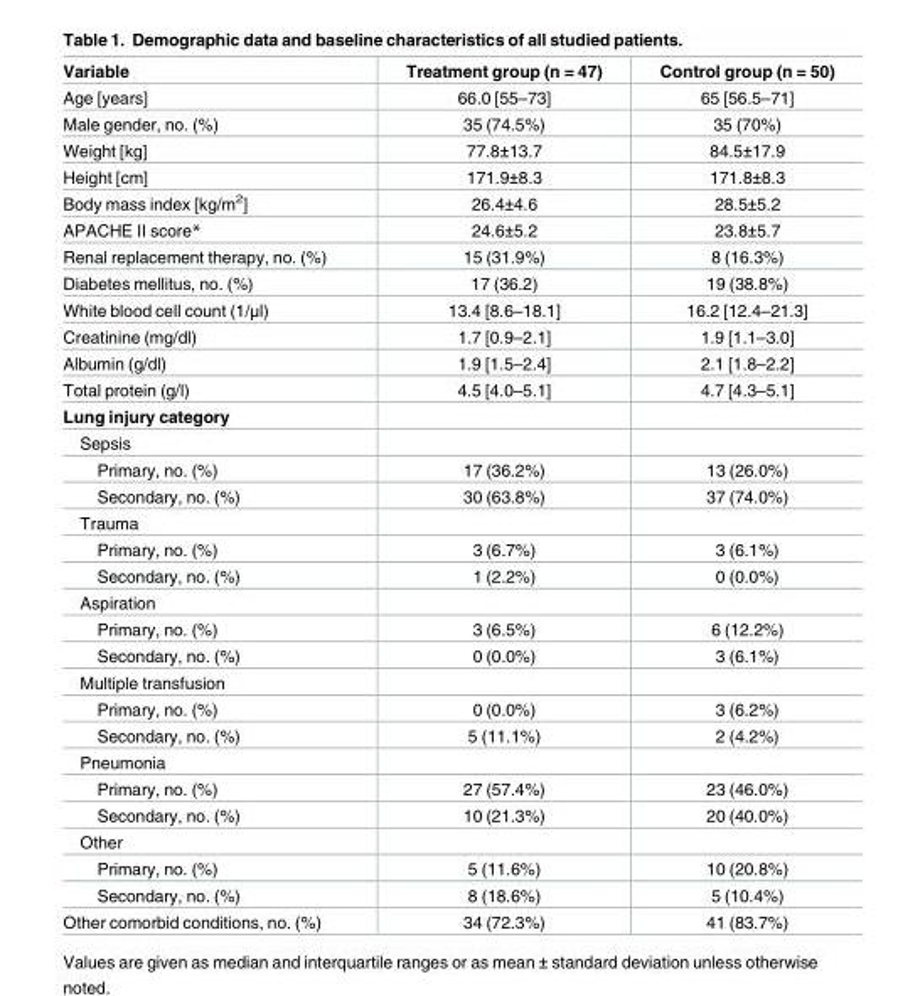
<table><thead><tr><td>Variable</td><td>Treatment group (n = 47)</td><td>Control group (n = 50)</td></tr></thead><tbody><tr><td>Age [years]</td><td>66.0 [55–73]</td><td>65 [56.5–71]</td></tr><tr><td>Male gender, no. (%)</td><td>35 (74.5%)</td><td>35 (70%)</td></tr><tr><td>Weight [kg]</td><td>77.8±13.7</td><td>84.5±17.9</td></tr><tr><td>Height [cm]</td><td>171.9±8.3</td><td>171.8±8.3</td></tr><tr><td>Body mass index [kg/m<sup>2</sup>]</td><td>26.4±4.6</td><td>28.5±5.2</td></tr><tr><td>APACHE II score*</td><td>24.6±5.2</td><td>23.8±5.7</td></tr><tr><td>Renal replacement therapy, no. (%)</td><td>15 (31.9%)</td><td>8 (16.3%)</td></tr><tr><td>Diabetes mellitus, no. (%)</td><td>17 (36.2)</td><td>19 (38.8%)</td></tr><tr><td>White blood cell count (1/μl)</td><td>13.4 [8.6–18.1]</td><td>16.2 [12.4–21.3]</td></tr><tr><td>Creatinine (mg/dl)</td><td>1.7 [0.9–2.1]</td><td>1.9 [1.1–3.0]</td></tr><tr><td>Albumin (g/dl)</td><td>1.9 [1.5–2.4]</td><td>2.1 [1.8–2.2]</td></tr><tr><td>Total protein (g/l)</td><td>4.5 [4.0–5.1]</td><td>4.7 [4.3–5.1]</td></tr><tr><td colspan="3">Lung injury category</td></tr><tr><td colspan="3">Sepsis</td></tr><tr><td>Primary, no. (%)</td><td>17 (36.2%)</td><td>13 (26.0%)</td></tr><tr><td>Secondary, no. (%)</td><td>30 (63.8%)</td><td>37 (74.0%)</td></tr><tr><td colspan="3">Trauma</td></tr><tr><td>Primary, no. (%)</td><td>3 (6.7%)</td><td>3 (6.1%)</td></tr><tr><td>Secondary, no. (%)</td><td>1 (2.2%)</td><td>0 (0.0%)</td></tr><tr><td colspan="3">Aspiration</td></tr><tr><td>Primary, no. (%)</td><td>3 (6.5%)</td><td>6 (12.2%)</td></tr><tr><td>Secondary, no. (%)</td><td>0 (0.0%)</td><td>3 (6.1%)</td></tr><tr><td colspan="3">Multiple transfusion</td></tr><tr><td>Primary, no. (%)</td><td>0 (0.0%)</td><td>3 (6.2%)</td></tr><tr><td>Secondary, no. (%)</td><td>5 (11.1%)</td><td>2 (4.2%)</td></tr><tr><td colspan="3">Pneumonia</td></tr><tr><td>Primary, no. (%)</td><td>27 (57.4%)</td><td>23 (46.0%)</td></tr><tr><td>Secondary, no. (%)</td><td>10 (21.3%)</td><td>20 (40.0%)</td></tr><tr><td colspan="3">Other</td></tr><tr><td>Primary, no. (%)</td><td>5 (11.6%)</td><td>10 (20.8%)</td></tr><tr><td>Secondary, no. (%)</td><td>8 (18.6%)</td><td>5 (10.4%)</td></tr><tr><td>Other comorbid conditions, no. (%)</td><td>34 (72.3%)</td><td>41 (83.7%)</td></tr></tbody></table>